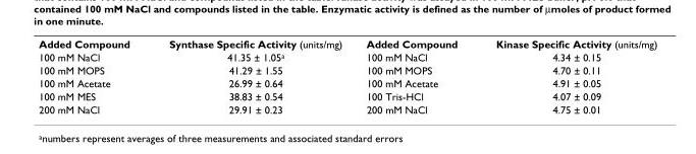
<table><tbody><tr><td>Added Compound</td><td>Synthase Specific Activity (units/mg)</td><td>Added Compound</td><td>Kinase Specific Activity (units/mg)</td></tr><tr><td>100 mM NaCl</td><td>41.35 ± 1.05<sup>a</sup></td><td>100 mM NaCl</td><td>4.34 ± 0.15</td></tr><tr><td>100 mM MOPS</td><td>41.29 ± 1.55</td><td>100 mM MOPS</td><td>4.70 ± 0.11</td></tr><tr><td>100 mM Acetate</td><td>26.99 ± 0.64</td><td>100 mM Acetate</td><td>4.91 ± 0.05</td></tr><tr><td>100 mM MES</td><td>38.83 ± 0.54</td><td>100 Tris-HCl</td><td>4.07 ± 0.09</td></tr><tr><td>200 mM NaCl</td><td>29.91 ± 0.23</td><td>200 mM NaCl</td><td>4.75 ± 0.01</td></tr></tbody></table>